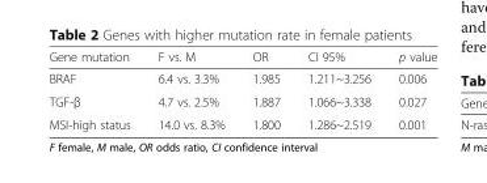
<table><thead><tr><td>Gene mutation</td><td>F vs. M</td><td>OR</td><td>CI 95%</td><td>p value</td></tr></thead><tbody><tr><td>BRAF</td><td>6.4 vs. 3.3%</td><td>1.985</td><td>1.211~3.256</td><td>0.006</td></tr><tr><td>TGF-β</td><td>4.7 vs. 2.5%</td><td>1.887</td><td>1.066~3.338</td><td>0.027</td></tr><tr><td>MSI-high status</td><td>14.0 vs. 8.3%</td><td>1.800</td><td>1.286~2.519</td><td>0.001</td></tr></tbody></table>